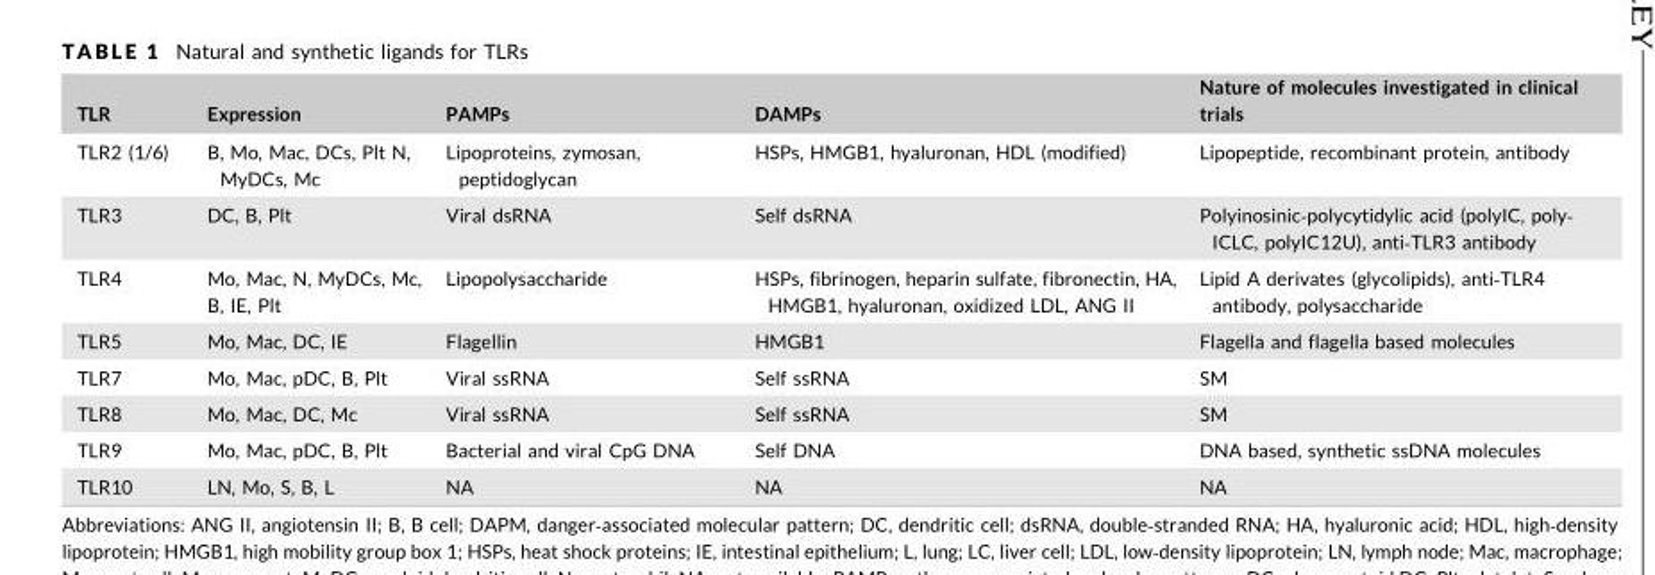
<table><thead><tr><td>TLR</td><td>Expression</td><td>PAMPs</td><td>DAMPs</td><td>Nature of molecules investigated in clinical trials</td></tr></thead><tbody><tr><td>TLR2 (1/6)</td><td>B, Mo, Mac, DCs, Plt N, MyDCs, Mc</td><td>Lipoproteins, zymosan, peptidoglycan</td><td>HSPs, HMGB1, hyaluronan, HDL (modified)</td><td>Lipopeptide, recombinant protein, antibody</td></tr><tr><td>TLR3</td><td>DC, B, Plt</td><td>Viral dsRNA</td><td>Self dsRNA</td><td>Polyinosinic‐polycytidylic acid (polyIC, poly‐ ICLC, polyIC12U), anti‐TLR3 antibody</td></tr><tr><td>TLR4</td><td>Mo, Mac, N, MyDCs, Mc, B, IE, Plt</td><td>Lipopolysaccharide</td><td>HSPs, fibrinogen, heparin sulfate, fibronectin, HA, HMGB1, hyaluronan, oxidized LDL, ANG II</td><td>Lipid A derivates (glycolipids), anti‐TLR4 antibody, polysaccharide</td></tr><tr><td>TLR5</td><td>Mo, Mac, DC, IE</td><td>Flagellin</td><td>HMGB1</td><td>Flagella and flagella based molecules</td></tr><tr><td>TLR7</td><td>Mo, Mac, pDC, B, Plt</td><td>Viral ssRNA</td><td>Self ssRNA</td><td>SM</td></tr><tr><td>TLR8</td><td>Mo, Mac, DC, Mc</td><td>Viral ssRNA</td><td>Self ssRNA</td><td>SM</td></tr><tr><td>TLR9</td><td>Mo, Mac, pDC, B, Plt</td><td>Bacterial and viral CpG DNA</td><td>Self DNA</td><td>DNA based, synthetic ssDNA molecules</td></tr><tr><td>TLR10</td><td>LN, Mo, S, B, L</td><td>NA</td><td>NA</td><td>NA</td></tr></tbody></table>